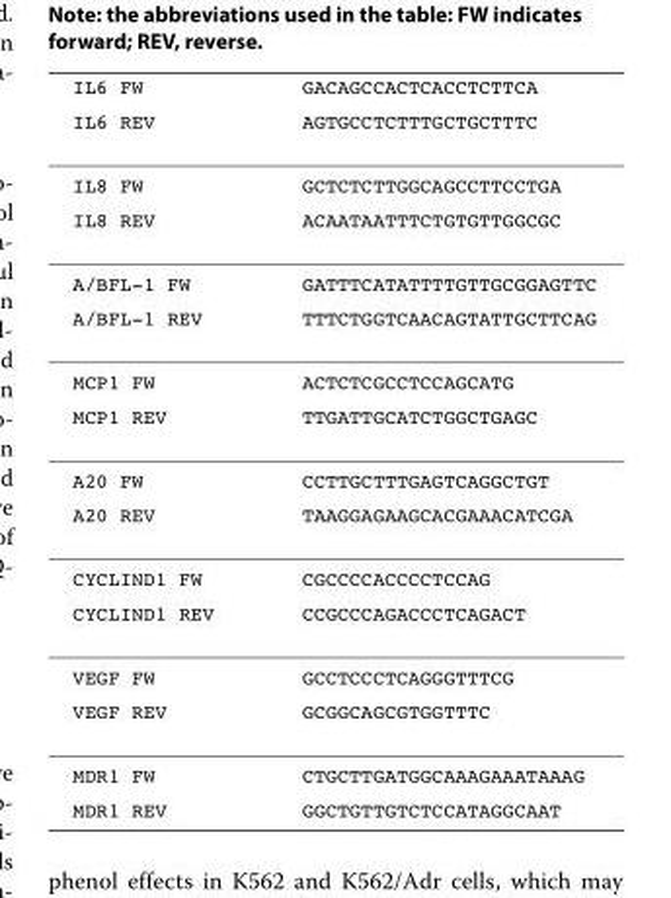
<table><thead><tr><td rowspan="2">IL6 FW IL6 REV</td><td rowspan="2">GACAGCCACTCACCTCTTCA AGTGCCTCTTTGCTGCTTTC</td></tr><tr></tr></thead><tbody><tr><td>IL8 FW</td><td>GCTCTCTTGGCAGCCTTCCTGA</td></tr><tr><td>IL8 REV</td><td>ACAATAATTTCTGTGTTGGCGC</td></tr><tr><td>A/BFL-1 FW</td><td>GATTTCATATTTTGTTGCGGAGTTC</td></tr><tr><td>A/BFL-1 REV</td><td>TTTCTGGTCAACAGTATTGCTTCAG</td></tr><tr><td>MCP1 FW</td><td>ACTCTCGCCTCCAGCATG</td></tr><tr><td>MCP1 REV</td><td>TTGATTGCATCTGGCTGAGC</td></tr><tr><td>A20 FW</td><td>CCTTGCTTTGAGTCAGGCTGT</td></tr><tr><td>A20 REV</td><td>TAAGGAGAAGCACGAAACATCGA</td></tr><tr><td>CYCLIND1 FW</td><td>CGCCCCACCCCTCCAG</td></tr><tr><td>CYCLIND1 REV</td><td>CCGCCCAGACCCTCAGACT</td></tr><tr><td>VEGF FW</td><td>GCCTCCCTCAGGGTTTCG</td></tr><tr><td>VEGF REV</td><td>GCGGCAGCGTGGTTTC</td></tr><tr><td>MDR1 FW</td><td>CTGCTTGATGGCAAAGAAATAAAG</td></tr><tr><td>MDR1 REV</td><td>GGCTGTTGTCTCCATAGGCAAT</td></tr></tbody></table>